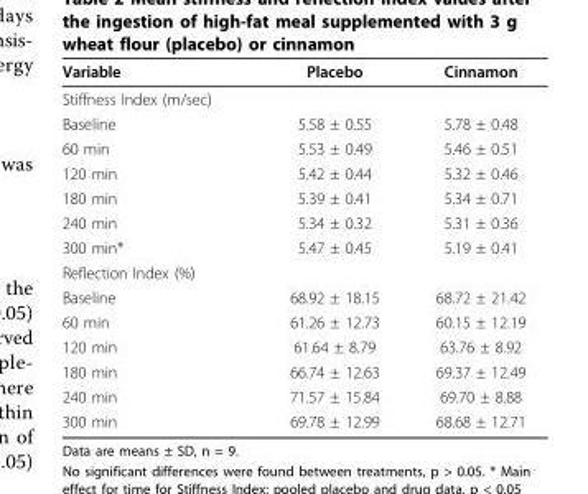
<table><thead><tr><td>Variable</td><td>Placebo</td><td>Cinnamon</td></tr></thead><tbody><tr><td colspan="3">Stiffness Index (m/sec)</td></tr><tr><td>Baseline</td><td>5.58 ± 0.55</td><td>5.78 ± 0.48</td></tr><tr><td>60 min</td><td>5.53 ± 0.49</td><td>5.46 ± 0.51</td></tr><tr><td>120 min</td><td>5.42 ± 0.44</td><td>5.32 ± 0.46</td></tr><tr><td>180 min</td><td>5.39 ± 0.41</td><td>5.34 ± 0.71</td></tr><tr><td>240 min</td><td>5.34 ± 0.32</td><td>5.31 ± 0.36</td></tr><tr><td>300 min*</td><td>5.47 ± 0.45</td><td>5.19 ± 0.41</td></tr><tr><td colspan="3">Reflection Index (%)</td></tr><tr><td>Baseline</td><td>68.92 ± 18.15</td><td>68.72 ± 21.42</td></tr><tr><td>60 min</td><td>61.26 ± 12.73</td><td>60.15 ± 12.19</td></tr><tr><td>120 min</td><td>61.64 ± 8.79</td><td>63.76 ± 8.92</td></tr><tr><td>180 min</td><td>66.74 ± 12.63</td><td>69.37 ± 12.49</td></tr><tr><td>240 min</td><td>71.57 ± 15.84</td><td>69.70 ± 8.88</td></tr><tr><td>300 min</td><td>69.78 ± 12.99</td><td>68.68 ± 12.71</td></tr></tbody></table>